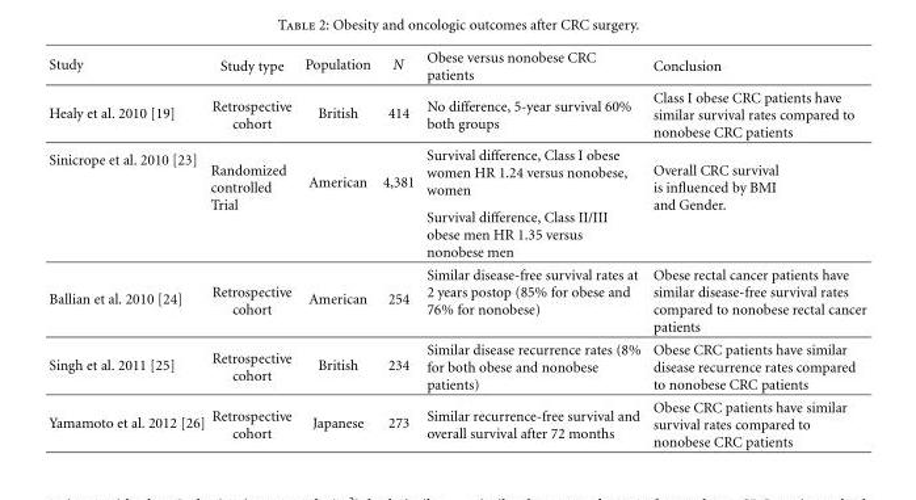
<table><thead><tr><td>Study</td><td>Study type</td><td>Population</td><td>N</td><td>Obese versus nonobese CRC patients</td><td>Conclusion</td></tr></thead><tbody><tr><td>Healy et al. 2010 [19]</td><td>Retrospective cohort</td><td>British</td><td>414</td><td>No difference, 5-year survival 60% both groups</td><td>Class I obese CRC patients have similar survival rates compared to nonobese CRC patients</td></tr><tr><td rowspan="2">Sinicrope et al. 2010 [23]</td><td rowspan="2">Randomized controlled Trial</td><td rowspan="2">American</td><td rowspan="2">4,381</td><td>Survival difference, Class I obese women HR 1.24 versus nonobese, women</td><td rowspan="2">Overall CRC survival is influenced by BMI and Gender.</td></tr><tr><td>Survival difference, Class II/III obese men HR 1.35 versus nonobese men</td></tr><tr><td>Ballian et al. 2010 [24]</td><td>Retrospective cohort</td><td>American</td><td>254</td><td>Similar disease-free survival rates at 2 years postop (85% for obese and 76% for nonobese)</td><td>Obese rectal cancer patients have similar disease-free survival rates compared to nonobese rectal cancer patients</td></tr><tr><td>Singh et al. 2011 [25]</td><td>Retrospective cohort</td><td>British</td><td>234</td><td>Similar disease recurrence rates (8% for both obese and nonobese patients)</td><td>Obese CRC patients have similar disease recurrence rates compared to nonobese CRC patients</td></tr><tr><td>Yamamoto et al. 2012 [26]</td><td>Retrospective cohort</td><td>Japanese</td><td>273</td><td>Similar recurrence-free survival and overall survival after 72 months</td><td>Obese CRC patients have similar survival rates compared to nonobese CRC patients</td></tr></tbody></table>